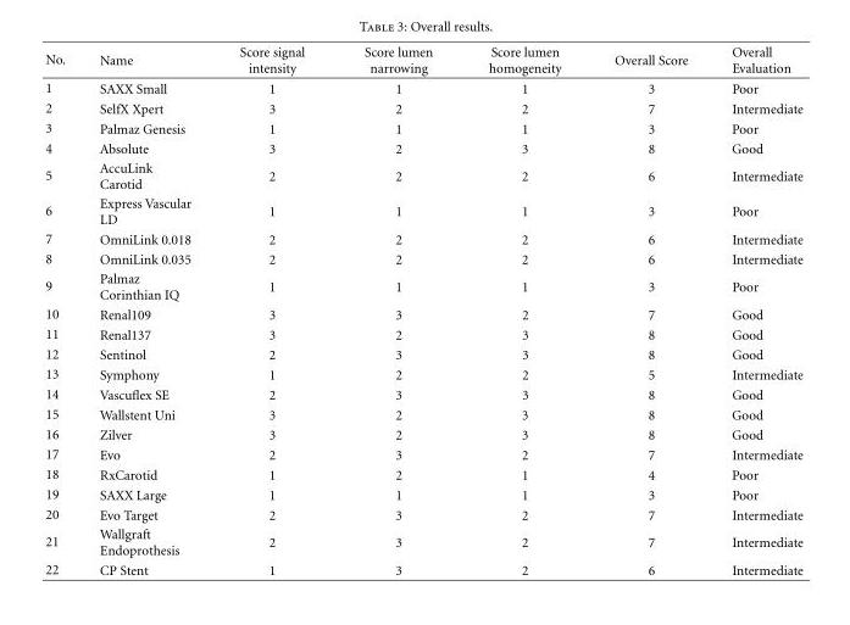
<table><thead><tr><td>No.</td><td>Name</td><td>Score signal intensity</td><td>Score lumen narrowing</td><td>Score lumen homogeneity</td><td>Overall Score</td><td>Overall Evaluation</td></tr></thead><tbody><tr><td>1</td><td>SAXX Small</td><td>1</td><td>1</td><td>1</td><td>3</td><td>Poor</td></tr><tr><td>2</td><td>SelfX Xpert</td><td>3</td><td>2</td><td>2</td><td>7</td><td>Intermediate</td></tr><tr><td>3</td><td>Palmaz Genesis</td><td>1</td><td>1</td><td>1</td><td>3</td><td>Poor</td></tr><tr><td>4</td><td>Absolute</td><td>3</td><td>2</td><td>3</td><td>8</td><td>Good</td></tr><tr><td>5</td><td>AccuLink Carotid</td><td>2</td><td>2</td><td>2</td><td>6</td><td>Intermediate</td></tr><tr><td>6</td><td>Express Vascular LD</td><td>1</td><td>1</td><td>1</td><td>3</td><td>Poor</td></tr><tr><td>7</td><td>OmniLink 0.018</td><td>2</td><td>2</td><td>2</td><td>6</td><td>Intermediate</td></tr><tr><td>8</td><td>OmniLink 0.035</td><td>2</td><td>2</td><td>2</td><td>6</td><td>Intermediate</td></tr><tr><td>9</td><td>Palmaz Corinthian IQ</td><td>1</td><td>1</td><td>1</td><td>3</td><td>Poor</td></tr><tr><td>10</td><td>Renal109</td><td>3</td><td>3</td><td>2</td><td>7</td><td>Good</td></tr><tr><td>11</td><td>Renal137</td><td>3</td><td>2</td><td>3</td><td>8</td><td>Good</td></tr><tr><td>12</td><td>Sentinol</td><td>2</td><td>3</td><td>3</td><td>8</td><td>Good</td></tr><tr><td>13</td><td>Symphony</td><td>1</td><td>2</td><td>2</td><td>5</td><td>Intermediate</td></tr><tr><td>14</td><td>Vascuflex SE</td><td>2</td><td>3</td><td>3</td><td>8</td><td>Good</td></tr><tr><td>15</td><td>Wallstent Uni</td><td>3</td><td>2</td><td>3</td><td>8</td><td>Good</td></tr><tr><td>16</td><td>Zilver</td><td>3</td><td>2</td><td>3</td><td>8</td><td>Good</td></tr><tr><td>17</td><td>Evo</td><td>2</td><td>3</td><td>2</td><td>7</td><td>Intermediate</td></tr><tr><td>18</td><td>RxCarotid</td><td>1</td><td>2</td><td>1</td><td>4</td><td>Poor</td></tr><tr><td>19</td><td>SAXX Large</td><td>1</td><td>1</td><td>1</td><td>3</td><td>Poor</td></tr><tr><td>20</td><td>Evo Target</td><td>2</td><td>3</td><td>2</td><td>7</td><td>Intermediate</td></tr><tr><td>21</td><td>Wallgraft Endoprothesis</td><td>2</td><td>3</td><td>2</td><td>7</td><td>Intermediate</td></tr><tr><td>22</td><td>CP Stent</td><td>1</td><td>3</td><td>2</td><td>6</td><td>Intermediate</td></tr></tbody></table>